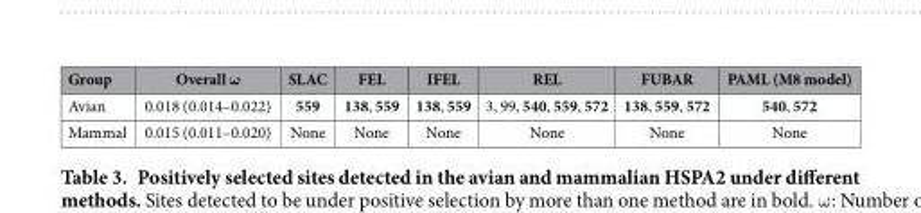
<table><thead><tr><td>Group</td><td>Overall ω</td><td>SLAC</td><td>FEL</td><td>IFEL</td><td>REL</td><td>FUBAR</td><td>PAML (M8 model)</td></tr></thead><tbody><tr><td>Avian</td><td>0.018 (0.014–0.022)</td><td>559</td><td>138, 559</td><td>138, 559</td><td>3, 99, 540, 559, 572</td><td>138, 559, 572</td><td>540, 572</td></tr><tr><td>Mammal</td><td>0.015 (0.011–0.020)</td><td>None</td><td>None</td><td>None</td><td>None</td><td>None</td><td>None</td></tr></tbody></table>